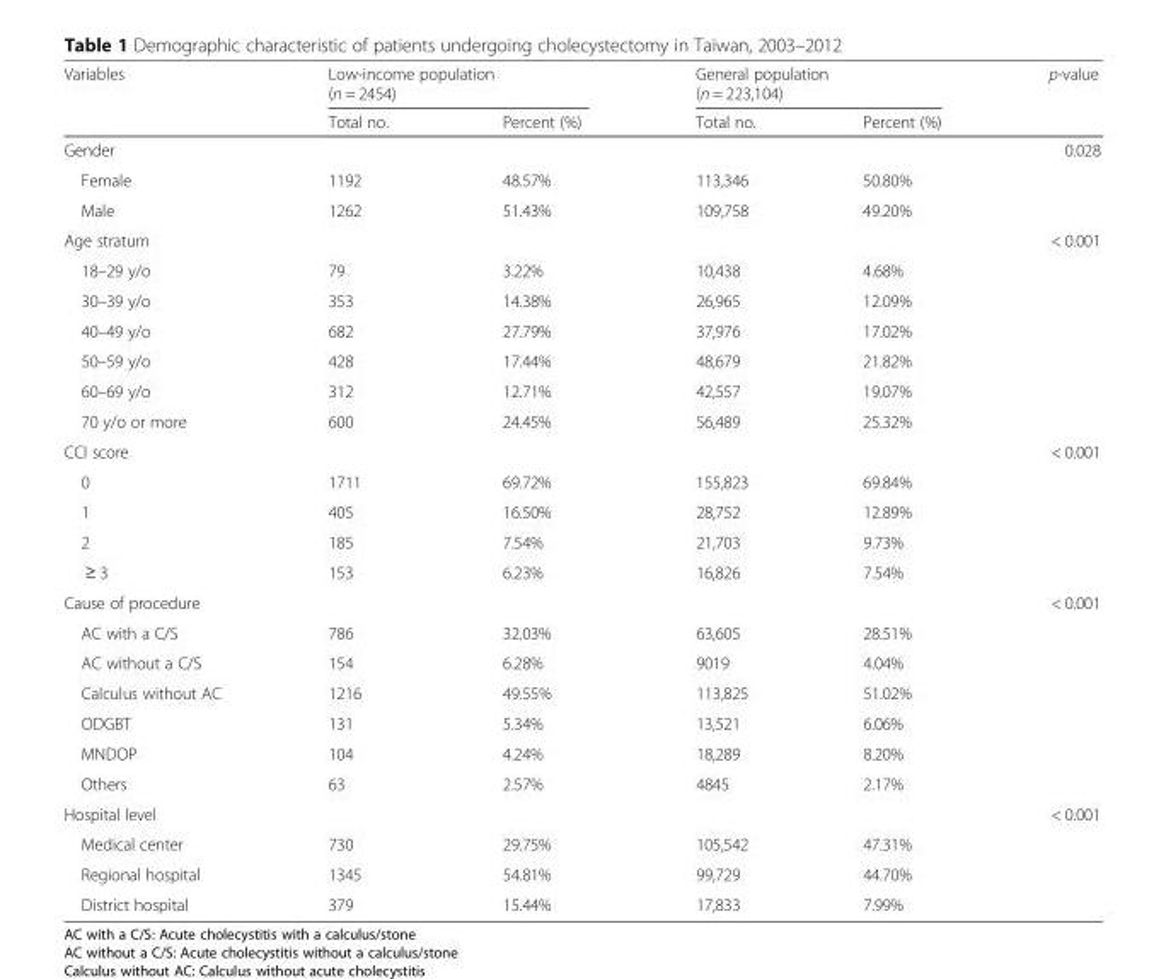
<table><thead><tr><td rowspan="2">Variables</td><td colspan="2">Low-income population (n = 2454)</td><td colspan="2">General population (n = 223,104)</td><td rowspan="2">p-value</td></tr><tr><td>Total no.</td><td>Percent (%)</td><td>Total no.</td><td>Percent (%)</td></tr></thead><tbody><tr><td>Gender</td><td colspan="2"></td><td colspan="2"></td><td>0.028</td></tr><tr><td>Female</td><td>1192</td><td>48.57%</td><td>113,346</td><td>50.80%</td><td rowspan="2"></td></tr><tr><td>Male</td><td>1262</td><td>51.43%</td><td>109,758</td><td>49.20%</td></tr><tr><td>Age stratum</td><td colspan="2"></td><td colspan="2"></td><td>&lt; 0.001</td></tr><tr><td>18–29 y/o</td><td>79</td><td>3.22%</td><td>10,438</td><td>4.68%</td><td rowspan="6"></td></tr><tr><td>30–39 y/o</td><td>353</td><td>14.38%</td><td>26,965</td><td>12.09%</td></tr><tr><td>40–49 y/o</td><td>682</td><td>27.79%</td><td>37,976</td><td>17.02%</td></tr><tr><td>50–59 y/o</td><td>428</td><td>17.44%</td><td>48,679</td><td>21.82%</td></tr><tr><td>60–69 y/o</td><td>312</td><td>12.71%</td><td>42,557</td><td>19.07%</td></tr><tr><td>70 y/o or more</td><td>600</td><td>24.45%</td><td>56,489</td><td>25.32%</td></tr><tr><td>CCI score</td><td colspan="2"></td><td colspan="2"></td><td>&lt; 0.001</td></tr><tr><td>0</td><td>1711</td><td>69.72%</td><td>155,823</td><td>69.84%</td><td rowspan="4"></td></tr><tr><td>1</td><td>405</td><td>16.50%</td><td>28,752</td><td>12.89%</td></tr><tr><td>2</td><td>185</td><td>7.54%</td><td>21,703</td><td>9.73%</td></tr><tr><td>≥ 3</td><td>153</td><td>6.23%</td><td>16,826</td><td>7.54%</td></tr><tr><td>Cause of procedure</td><td colspan="2"></td><td colspan="2"></td><td>&lt; 0.001</td></tr><tr><td>AC with a C/S</td><td>786</td><td>32.03%</td><td>63,605</td><td>28.51%</td><td rowspan="6"></td></tr><tr><td>AC without a C/S</td><td>154</td><td>6.28%</td><td>9019</td><td>4.04%</td></tr><tr><td>Calculus without AC</td><td>1216</td><td>49.55%</td><td>113,825</td><td>51.02%</td></tr><tr><td>ODGBT</td><td>131</td><td>5.34%</td><td>13,521</td><td>6.06%</td></tr><tr><td>MNDOP</td><td>104</td><td>4.24%</td><td>18,289</td><td>8.20%</td></tr><tr><td>Others</td><td>63</td><td>2.57%</td><td>4845</td><td>2.17%</td></tr><tr><td>Hospital level</td><td colspan="2"></td><td colspan="2"></td><td>&lt; 0.001</td></tr><tr><td>Medical center</td><td>730</td><td>29.75%</td><td>105,542</td><td>47.31%</td><td rowspan="3"></td></tr><tr><td>Regional hospital</td><td>1345</td><td>54.81%</td><td>99,729</td><td>44.70%</td></tr><tr><td>District hospital</td><td>379</td><td>15.44%</td><td>17,833</td><td>7.99%</td></tr></tbody></table>